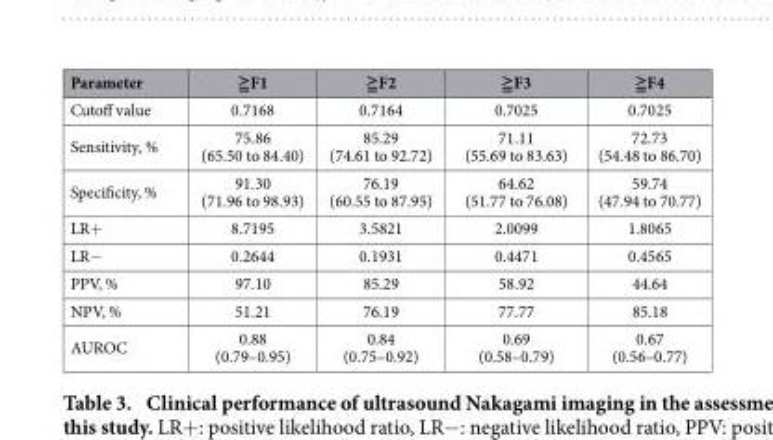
<table><thead><tr><td>Parameter</td><td>≧F1</td><td>≧F2</td><td>≧F3</td><td>≧F4</td></tr></thead><tbody><tr><td>Cutoff value</td><td>0.7168</td><td>0.7164</td><td>0.7025</td><td>0.7025</td></tr><tr><td>Sensitivity, %</td><td>75.86 (65.50 to 84.40)</td><td>85.29 (74.61 to 92.72)</td><td>71.11 (55.69 to 83.63)</td><td>72.73 (54.48 to 86.70)</td></tr><tr><td>Specificity, %</td><td>91.30 (71.96 to 98.93)</td><td>76.19 (60.55 to 87.95)</td><td>64.62 (51.77 to 76.08)</td><td>59.74 (47.94 to 70.77)</td></tr><tr><td>LR+</td><td>8.7195</td><td>3.5821</td><td>2.0099</td><td>1.8065</td></tr><tr><td>LR−</td><td>0.2644</td><td>0.1931</td><td>0.4471</td><td>0.4565</td></tr><tr><td>PPV, %</td><td>97.10</td><td>85.29</td><td>58.92</td><td>44.64</td></tr><tr><td>NPV, %</td><td>51.21</td><td>76.19</td><td>77.77</td><td>85.18</td></tr><tr><td>AUROC</td><td>0.88 (0.79–0.95)</td><td>0.84 (0.75–0.92)</td><td>0.69 (0.58–0.79)</td><td>0.67 (0.56–0.77)</td></tr></tbody></table>